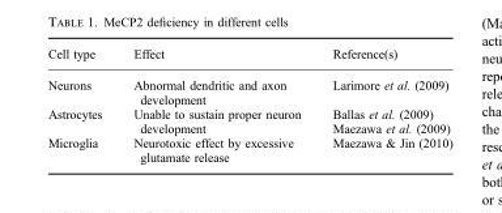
<table><thead><tr><td>Cell type</td><td>Effect</td><td>Reference(s)</td></tr></thead><tbody><tr><td>Neurons</td><td>Abnormal dendritic and axon development</td><td>Larimore et al. (2009)</td></tr><tr><td>Astrocytes</td><td>Unable to sustain proper neuron development</td><td>Ballas et al. (2009) Maezawa et al. (2009)</td></tr><tr><td>Microglia</td><td>Neurotoxic effect by excessive glutamate release</td><td>Maezawa &amp; Jin (2010)</td></tr></tbody></table>